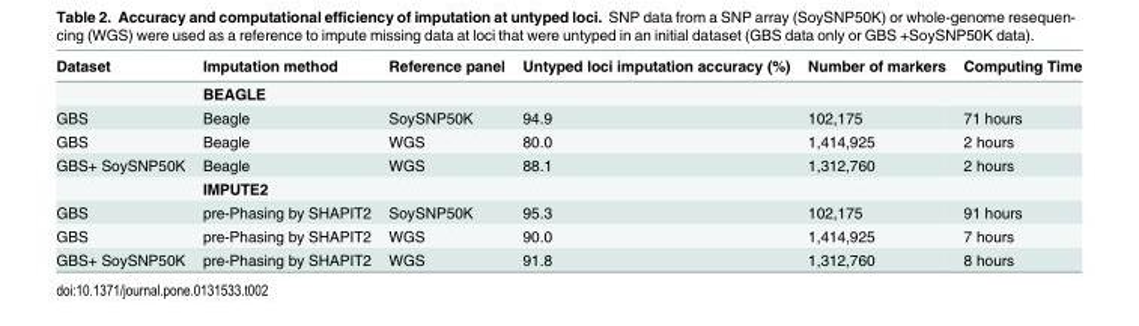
<table><thead><tr><td>Dataset</td><td>Imputation method</td><td>Reference panel</td><td>Untyped loci imputation accuracy (%)</td><td>Number of markers</td><td>Computing Time</td></tr></thead><tbody><tr><td></td><td>BEAGLE</td><td></td><td></td><td></td><td></td></tr><tr><td>GBS</td><td>Beagle</td><td>SoySNP50K</td><td>94.9</td><td>102,175</td><td>71 hours</td></tr><tr><td>GBS</td><td>Beagle</td><td>WGS</td><td>80.0</td><td>1,414,925</td><td>2 hours</td></tr><tr><td rowspan="2">GBS+ SoySNP50K</td><td>Beagle</td><td>WGS</td><td>88.1</td><td>1,312,760</td><td>2 hours</td></tr><tr><td>IMPUTE2</td><td></td><td></td><td></td><td></td></tr><tr><td>GBS</td><td>pre-Phasing by SHAPIT2</td><td>SoySNP50K</td><td>95.3</td><td>102,175</td><td>91 hours</td></tr><tr><td>GBS</td><td>pre-Phasing by SHAPIT2</td><td>WGS</td><td>90.0</td><td>1,414,925</td><td>7 hours</td></tr><tr><td>GBS+ SoySNP50K</td><td>pre-Phasing by SHAPIT2</td><td>WGS</td><td>91.8</td><td>1,312,760</td><td>8 hours</td></tr></tbody></table>